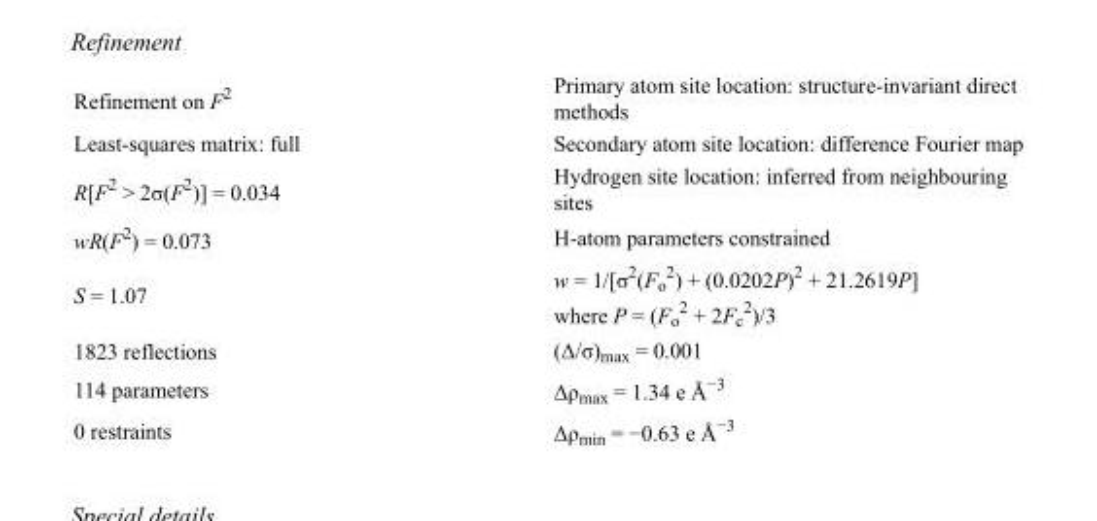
<table><tbody><tr><td>Refinement on F<sup>2</sup></td><td>Primary atom site location: structure-invariant direct methods</td></tr><tr><td>Least-squares matrix: full</td><td>Secondary atom site location: difference Fourier map</td></tr><tr><td>R[F<sup>2</sup> &gt; 2σ(F<sup>2</sup>)] = 0.034</td><td>Hydrogen site location: inferred from neighbouring sites</td></tr><tr><td>wR(F<sup>2</sup>) = 0.073</td><td>H-atom parameters constrained</td></tr><tr><td>S = 1.07</td><td>w = 1/[σ<sup>2</sup>(F<sub>o</sub> <sup>2</sup>) + (0.0202P)<sup>2</sup> + 21.2619P] where P = (F<sub>o</sub> <sup>2</sup> + 2F<sub>c</sub> <sup>2</sup>)/3</td></tr><tr><td>1823 reflections</td><td>(Δ/σ)<sub>max</sub> = 0.001</td></tr><tr><td>114 parameters</td><td>Δρ<sub>max</sub> = 1.34 e Å<sup>−3</sup></td></tr><tr><td>0 restraints</td><td>Δρ<sub>min</sub> = −0.63 e Å<sup>−3</sup></td></tr></tbody></table>